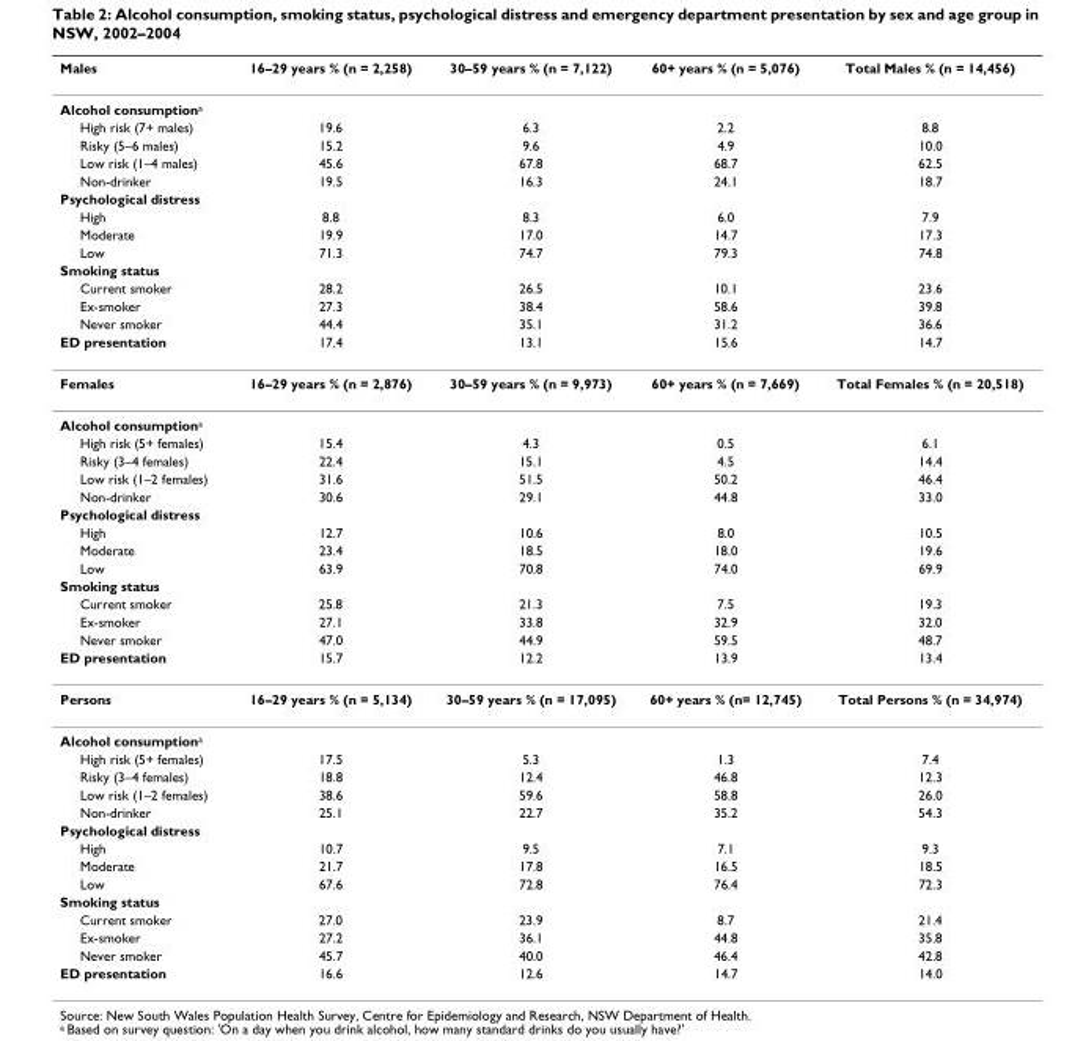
<table><thead><tr><td>Males</td><td>16–29 years % (n = 2,258)</td><td>30–59 years % (n = 7,122)</td><td>60+ years % (n = 5,076)</td><td>Total Males % (n = 14,456)</td></tr></thead><tbody><tr><td colspan="5">Alcohol consumption<sup>a</sup></td></tr><tr><td>High risk (7+ males)</td><td>19.6</td><td>6.3</td><td>2.2</td><td>8.8</td></tr><tr><td>Risky (5–6 males)</td><td>15.2</td><td>9.6</td><td>4.9</td><td>10.0</td></tr><tr><td>Low risk (1–4 males)</td><td>45.6</td><td>67.8</td><td>68.7</td><td>62.5</td></tr><tr><td>Non-drinker</td><td>19.5</td><td>16.3</td><td>24.1</td><td>18.7</td></tr><tr><td colspan="5">Psychological distress</td></tr><tr><td>High</td><td>8.8</td><td>8.3</td><td>6.0</td><td>7.9</td></tr><tr><td>Moderate</td><td>19.9</td><td>17.0</td><td>14.7</td><td>17.3</td></tr><tr><td>Low</td><td>71.3</td><td>74.7</td><td>79.3</td><td>74.8</td></tr><tr><td colspan="5">Smoking status</td></tr><tr><td>Current smoker</td><td>28.2</td><td>26.5</td><td>10.1</td><td>23.6</td></tr><tr><td>Ex-smoker</td><td>27.3</td><td>38.4</td><td>58.6</td><td>39.8</td></tr><tr><td>Never smoker</td><td>44.4</td><td>35.1</td><td>31.2</td><td>36.6</td></tr><tr><td>ED presentation</td><td>17.4</td><td>13.1</td><td>15.6</td><td>14.7</td></tr><tr><td>Females</td><td>16–29 years % (n = 2,876)</td><td>30–59 years % (n = 9,973)</td><td>60+ years % (n = 7,669)</td><td>Total Females % (n = 20,518)</td></tr><tr><td colspan="5">Alcohol consumption<sup>a</sup></td></tr><tr><td>High risk (5+ females)</td><td>15.4</td><td>4.3</td><td>0.5</td><td>6.1</td></tr><tr><td>Risky (3–4 females)</td><td>22.4</td><td>15.1</td><td>4.5</td><td>14.4</td></tr><tr><td>Low risk (1–2 females)</td><td>31.6</td><td>51.5</td><td>50.2</td><td>46.4</td></tr><tr><td>Non-drinker</td><td>30.6</td><td>29.1</td><td>44.8</td><td>33.0</td></tr><tr><td colspan="5">Psychological distress</td></tr><tr><td>High</td><td>12.7</td><td>10.6</td><td>8.0</td><td>10.5</td></tr><tr><td>Moderate</td><td>23.4</td><td>18.5</td><td>18.0</td><td>19.6</td></tr><tr><td>Low</td><td>63.9</td><td>70.8</td><td>74.0</td><td>69.9</td></tr><tr><td colspan="5">Smoking status</td></tr><tr><td>Current smoker</td><td>25.8</td><td>21.3</td><td>7.5</td><td>19.3</td></tr><tr><td>Ex-smoker</td><td>27.1</td><td>33.8</td><td>32.9</td><td>32.0</td></tr><tr><td>Never smoker</td><td>47.0</td><td>44.9</td><td>59.5</td><td>48.7</td></tr><tr><td>ED presentation</td><td>15.7</td><td>12.2</td><td>13.9</td><td>13.4</td></tr><tr><td>Persons</td><td>16–29 years % (n = 5,134)</td><td>30–59 years % (n = 17,095)</td><td>60+ years % (n= 12,745)</td><td>Total Persons % (n = 34,974)</td></tr><tr><td colspan="5">Alcohol consumption<sup>a</sup></td></tr><tr><td>High risk (5+ females)</td><td>17.5</td><td>5.3</td><td>1.3</td><td>7.4</td></tr><tr><td>Risky (3–4 females)</td><td>18.8</td><td>12.4</td><td>46.8</td><td>12.3</td></tr><tr><td>Low risk (1–2 females)</td><td>38.6</td><td>59.6</td><td>58.8</td><td>26.0</td></tr><tr><td>Non-drinker</td><td>25.1</td><td>22.7</td><td>35.2</td><td>54.3</td></tr><tr><td colspan="5">Psychological distress</td></tr><tr><td>High</td><td>10.7</td><td>9.5</td><td>7.1</td><td>9.3</td></tr><tr><td>Moderate</td><td>21.7</td><td>17.8</td><td>16.5</td><td>18.5</td></tr><tr><td>Low</td><td>67.6</td><td>72.8</td><td>76.4</td><td>72.3</td></tr><tr><td colspan="5">Smoking status</td></tr><tr><td>Current smoker</td><td>27.0</td><td>23.9</td><td>8.7</td><td>21.4</td></tr><tr><td>Ex-smoker</td><td>27.2</td><td>36.1</td><td>44.8</td><td>35.8</td></tr><tr><td>Never smoker</td><td>45.7</td><td>40.0</td><td>46.4</td><td>42.8</td></tr><tr><td>ED presentation</td><td>16.6</td><td>12.6</td><td>14.7</td><td>14.0</td></tr></tbody></table>